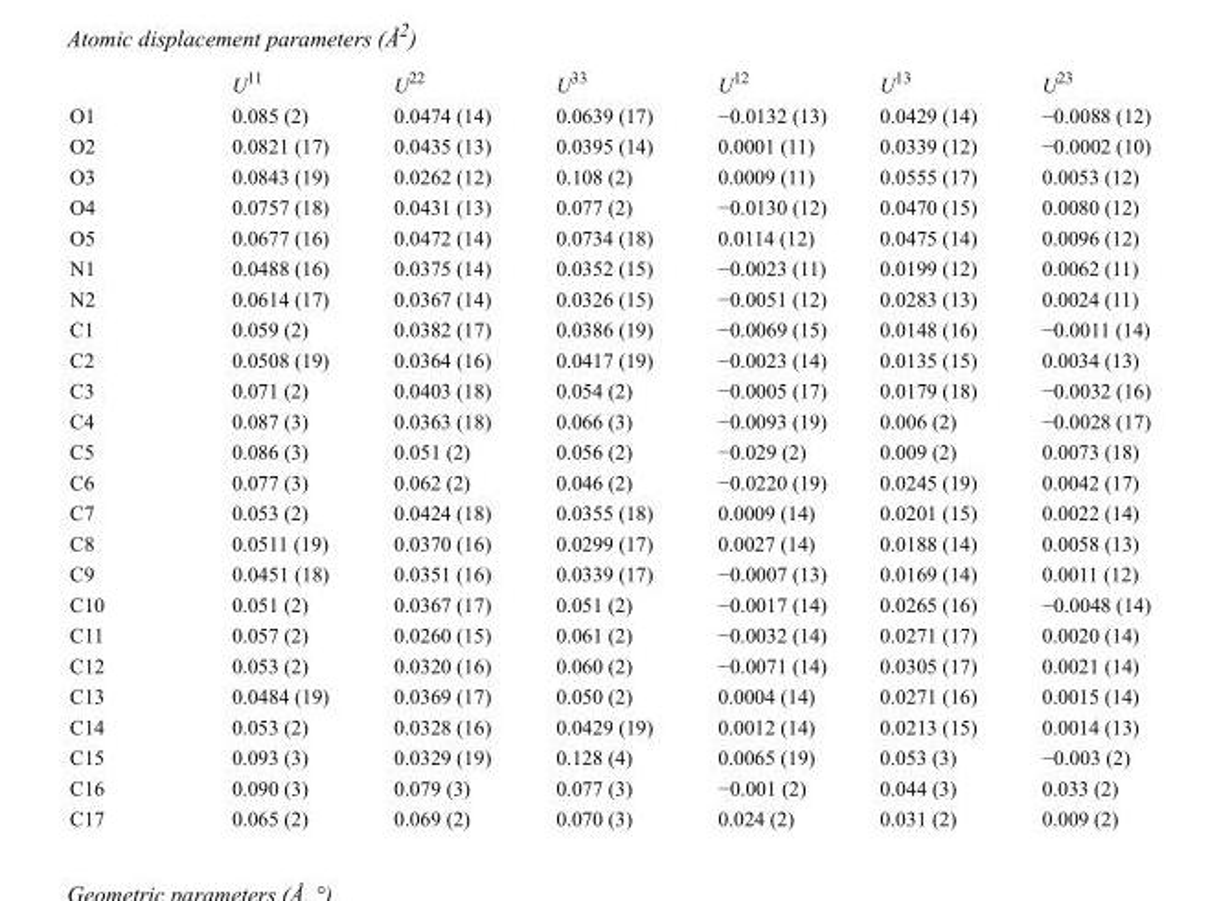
<table><thead><tr><td></td><td>U<sup>11</sup></td><td>U<sup>22</sup></td><td>U<sup>33</sup></td><td>U<sup>12</sup></td><td>U<sup>13</sup></td><td>U<sup>23</sup></td></tr></thead><tbody><tr><td>O1</td><td>0.085 (2)</td><td>0.0474 (14)</td><td>0.0639 (17)</td><td>−0.0132 (13)</td><td>0.0429 (14)</td><td>−0.0088 (12)</td></tr><tr><td>O2</td><td>0.0821 (17)</td><td>0.0435 (13)</td><td>0.0395 (14)</td><td>0.0001 (11)</td><td>0.0339 (12)</td><td>−0.0002 (10)</td></tr><tr><td>O3</td><td>0.0843 (19)</td><td>0.0262 (12)</td><td>0.108 (2)</td><td>0.0009 (11)</td><td>0.0555 (17)</td><td>0.0053 (12)</td></tr><tr><td>O4</td><td>0.0757 (18)</td><td>0.0431 (13)</td><td>0.077 (2)</td><td>−0.0130 (12)</td><td>0.0470 (15)</td><td>0.0080 (12)</td></tr><tr><td>O5</td><td>0.0677 (16)</td><td>0.0472 (14)</td><td>0.0734 (18)</td><td>0.0114 (12)</td><td>0.0475 (14)</td><td>0.0096 (12)</td></tr><tr><td>N1</td><td>0.0488 (16)</td><td>0.0375 (14)</td><td>0.0352 (15)</td><td>−0.0023 (11)</td><td>0.0199 (12)</td><td>0.0062 (11)</td></tr><tr><td>N2</td><td>0.0614 (17)</td><td>0.0367 (14)</td><td>0.0326 (15)</td><td>−0.0051 (12)</td><td>0.0283 (13)</td><td>0.0024 (11)</td></tr><tr><td>C1</td><td>0.059 (2)</td><td>0.0382 (17)</td><td>0.0386 (19)</td><td>−0.0069 (15)</td><td>0.0148 (16)</td><td>−0.0011 (14)</td></tr><tr><td>C2</td><td>0.0508 (19)</td><td>0.0364 (16)</td><td>0.0417 (19)</td><td>−0.0023 (14)</td><td>0.0135 (15)</td><td>0.0034 (13)</td></tr><tr><td>C3</td><td>0.071 (2)</td><td>0.0403 (18)</td><td>0.054 (2)</td><td>−0.0005 (17)</td><td>0.0179 (18)</td><td>−0.0032 (16)</td></tr><tr><td>C4</td><td>0.087 (3)</td><td>0.0363 (18)</td><td>0.066 (3)</td><td>−0.0093 (19)</td><td>0.006 (2)</td><td>−0.0028 (17)</td></tr><tr><td>C5</td><td>0.086 (3)</td><td>0.051 (2)</td><td>0.056 (2)</td><td>−0.029 (2)</td><td>0.009 (2)</td><td>0.0073 (18)</td></tr><tr><td>C6</td><td>0.077 (3)</td><td>0.062 (2)</td><td>0.046 (2)</td><td>−0.0220 (19)</td><td>0.0245 (19)</td><td>0.0042 (17)</td></tr><tr><td>C7</td><td>0.053 (2)</td><td>0.0424 (18)</td><td>0.0355 (18)</td><td>0.0009 (14)</td><td>0.0201 (15)</td><td>0.0022 (14)</td></tr><tr><td>C8</td><td>0.0511 (19)</td><td>0.0370 (16)</td><td>0.0299 (17)</td><td>0.0027 (14)</td><td>0.0188 (14)</td><td>0.0058 (13)</td></tr><tr><td>C9</td><td>0.0451 (18)</td><td>0.0351 (16)</td><td>0.0339 (17)</td><td>−0.0007 (13)</td><td>0.0169 (14)</td><td>0.0011 (12)</td></tr><tr><td>C10</td><td>0.051 (2)</td><td>0.0367 (17)</td><td>0.051 (2)</td><td>−0.0017 (14)</td><td>0.0265 (16)</td><td>−0.0048 (14)</td></tr><tr><td>C11</td><td>0.057 (2)</td><td>0.0260 (15)</td><td>0.061 (2)</td><td>−0.0032 (14)</td><td>0.0271 (17)</td><td>0.0020 (14)</td></tr><tr><td>C12</td><td>0.053 (2)</td><td>0.0320 (16)</td><td>0.060 (2)</td><td>−0.0071 (14)</td><td>0.0305 (17)</td><td>0.0021 (14)</td></tr><tr><td>C13</td><td>0.0484 (19)</td><td>0.0369 (17)</td><td>0.050 (2)</td><td>0.0004 (14)</td><td>0.0271 (16)</td><td>0.0015 (14)</td></tr><tr><td>C14</td><td>0.053 (2)</td><td>0.0328 (16)</td><td>0.0429 (19)</td><td>0.0012 (14)</td><td>0.0213 (15)</td><td>0.0014 (13)</td></tr><tr><td>C15</td><td>0.093 (3)</td><td>0.0329 (19)</td><td>0.128 (4)</td><td>0.0065 (19)</td><td>0.053 (3)</td><td>−0.003 (2)</td></tr><tr><td>C16</td><td>0.090 (3)</td><td>0.079 (3)</td><td>0.077 (3)</td><td>−0.001 (2)</td><td>0.044 (3)</td><td>0.033 (2)</td></tr><tr><td>C17</td><td>0.065 (2)</td><td>0.069 (2)</td><td>0.070 (3)</td><td>0.024 (2)</td><td>0.031 (2)</td><td>0.009 (2)</td></tr></tbody></table>